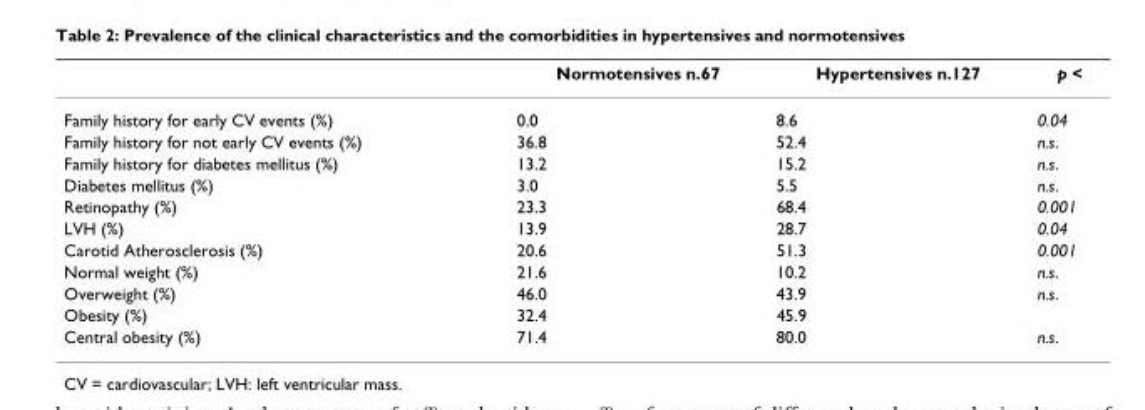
<table><thead><tr><td></td><td>Normotensives n.67</td><td>Hypertensives n.127</td><td>p &lt;</td></tr></thead><tbody><tr><td>Family history for early CV events (%)</td><td>0.0</td><td>8.6</td><td>0.04</td></tr><tr><td>Family history for not early CV events (%)</td><td>36.8</td><td>52.4</td><td>n.s.</td></tr><tr><td>Family history for diabetes mellitus (%)</td><td>13.2</td><td>15.2</td><td>n.s.</td></tr><tr><td>Diabetes mellitus (%)</td><td>3.0</td><td>5.5</td><td>n.s.</td></tr><tr><td>Retinopathy (%)</td><td>23.3</td><td>68.4</td><td>0.001</td></tr><tr><td>LVH (%)</td><td>13.9</td><td>28.7</td><td>0.04</td></tr><tr><td>Carotid Atherosclerosis (%)</td><td>20.6</td><td>51.3</td><td>0.001</td></tr><tr><td>Normal weight (%)</td><td>21.6</td><td>10.2</td><td>n.s.</td></tr><tr><td>Overweight (%)</td><td>46.0</td><td>43.9</td><td>n.s.</td></tr><tr><td>Obesity (%)</td><td>32.4</td><td>45.9</td><td></td></tr><tr><td>Central obesity (%)</td><td>71.4</td><td>80.0</td><td>n.s.</td></tr></tbody></table>